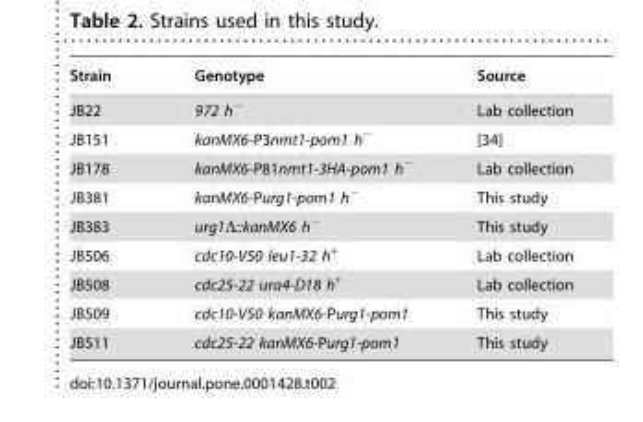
<table><thead><tr><td>Strain</td><td>Genotype</td><td>Source</td></tr></thead><tbody><tr><td>JB22</td><td>972 h<sup>−</sup></td><td>Lab collection</td></tr><tr><td>JB151</td><td>kanMX6-P3nmt1-pom1 h<sup>−</sup></td><td>[34]</td></tr><tr><td>JB178</td><td>kanMX6-P81nmt1-3HA-pom1 h<sup>−</sup></td><td>Lab collection</td></tr><tr><td>JB381</td><td>kanMX6-Purg1-pom1 h<sup>−</sup></td><td>This study</td></tr><tr><td>JB383</td><td>urg1Δ::kanMX6 h<sup>−</sup></td><td>This study</td></tr><tr><td>JB506</td><td>cdc10-V50 leu1-32 h<sup>+</sup></td><td>Lab collection</td></tr><tr><td>JB508</td><td>cdc25-22 ura4-D18 h<sup>+</sup></td><td>Lab collection</td></tr><tr><td>JB509</td><td>cdc10-V50 kanMX6-Purg1-pom1</td><td>This study</td></tr><tr><td>JB511</td><td>cdc25-22 kanMX6-Purg1-pom1</td><td>This study</td></tr></tbody></table>